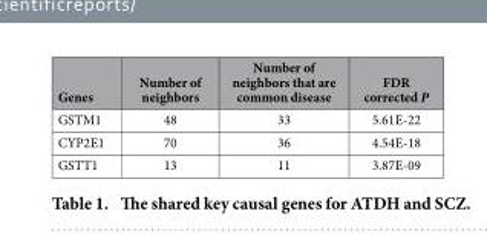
<table><thead><tr><td>Genes</td><td>Number of neighbors</td><td>Number of neighbors that are common disease</td><td>FDR corrected P</td></tr></thead><tbody><tr><td>GSTM1</td><td>48</td><td>33</td><td>5.61E-22</td></tr><tr><td>CYP2E1</td><td>70</td><td>36</td><td>4.54E-18</td></tr><tr><td>GSTT1</td><td>13</td><td>11</td><td>3.87E-09</td></tr></tbody></table>